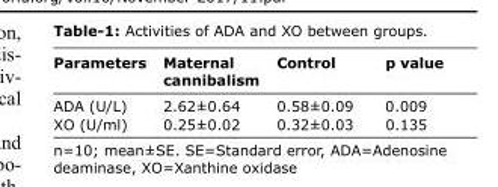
<table><thead><tr><td>Parameters</td><td>Maternal cannibalism</td><td>Control</td><td>p value</td></tr></thead><tbody><tr><td>ADA (U/L)</td><td>2.62±0.64</td><td>0.58±0.09</td><td>0.009</td></tr><tr><td>XO (U/ml)</td><td>0.25±0.02</td><td>0.32±0.03</td><td>0.135</td></tr></tbody></table>